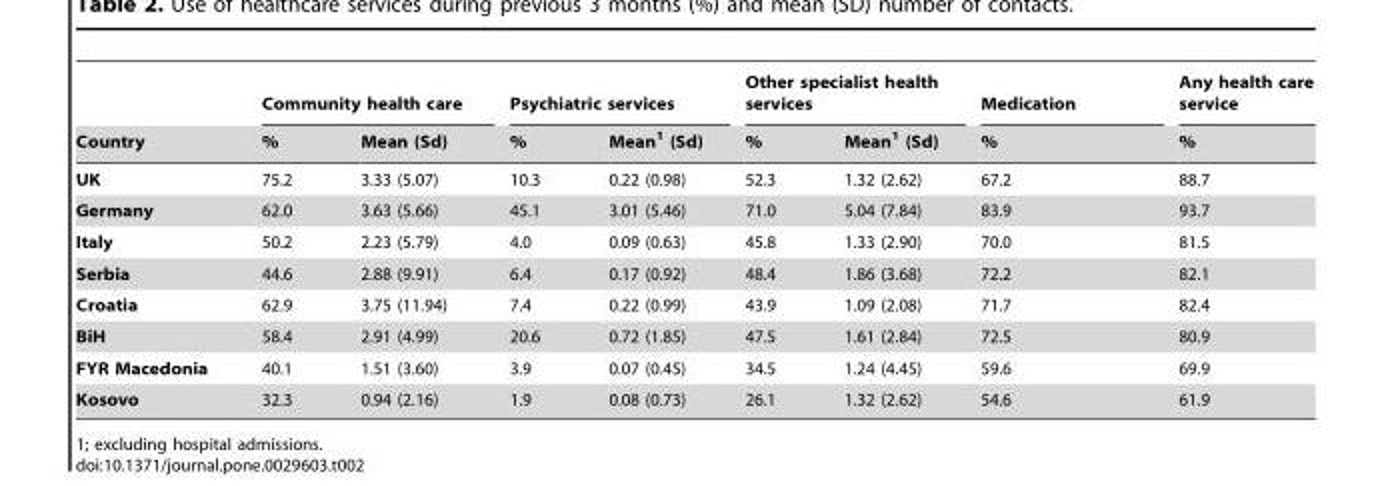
<table><thead><tr><td rowspan="2">Country</td><td colspan="2">Community health care</td><td colspan="2">Psychiatric services</td><td colspan="2">Other specialist health services</td><td rowspan="2">Medication %</td><td rowspan="2">Any health care service %</td></tr><tr><td>%</td><td>Mean (Sd)</td><td>%</td><td>Mean<sup>1</sup> (Sd)</td><td>%</td><td>Mean<sup>1</sup> (Sd)</td></tr></thead><tbody><tr><td>UK</td><td>75.2</td><td>3.33 (5.07)</td><td>10.3</td><td>0.22 (0.98)</td><td>52.3</td><td>1.32 (2.62)</td><td>67.2</td><td>88.7</td></tr><tr><td>Germany</td><td>62.0</td><td>3.63 (5.66)</td><td>45.1</td><td>3.01 (5.46)</td><td>71.0</td><td>5.04 (7.84)</td><td>83.9</td><td>93.7</td></tr><tr><td>Italy</td><td>50.2</td><td>2.23 (5.79)</td><td>4.0</td><td>0.09 (0.63)</td><td>45.8</td><td>1.33 (2.90)</td><td>70.0</td><td>81.5</td></tr><tr><td>Serbia</td><td>44.6</td><td>2.88 (9.91)</td><td>6.4</td><td>0.17 (0.92)</td><td>48.4</td><td>1.86 (3.68)</td><td>72.2</td><td>82.1</td></tr><tr><td>Croatia</td><td>62.9</td><td>3.75 (11.94)</td><td>7.4</td><td>0.22 (0.99)</td><td>43.9</td><td>1.09 (2.08)</td><td>71.7</td><td>82.4</td></tr><tr><td>BiH</td><td>58.4</td><td>2.91 (4.99)</td><td>20.6</td><td>0.72 (1.85)</td><td>47.5</td><td>1.61 (2.84)</td><td>72.5</td><td>80.9</td></tr><tr><td>FYR Macedonia</td><td>40.1</td><td>1.51 (3.60)</td><td>3.9</td><td>0.07 (0.45)</td><td>34.5</td><td>1.24 (4.45)</td><td>59.6</td><td>69.9</td></tr><tr><td>Kosovo</td><td>32.3</td><td>0.94 (2.16)</td><td>1.9</td><td>0.08 (0.73)</td><td>26.1</td><td>1.32 (2.62)</td><td>54.6</td><td>61.9</td></tr></tbody></table>